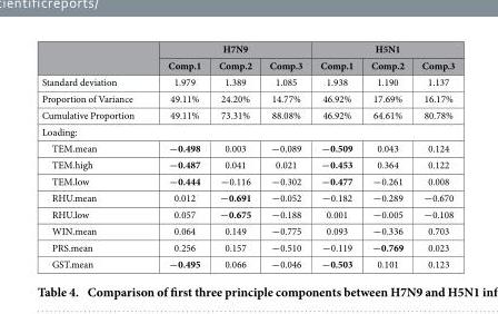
<table><thead><tr><td rowspan="2"></td><td colspan="3">H7N9</td><td colspan="3">H5N1</td></tr><tr><td>Comp.1</td><td>Comp.2</td><td>Comp.3</td><td>Comp.1</td><td>Comp.2</td><td>Comp.3</td></tr></thead><tbody><tr><td>Standard deviation</td><td>1.979</td><td>1.389</td><td>1.085</td><td>1.938</td><td>1.190</td><td>1.137</td></tr><tr><td>Proportion of Variance</td><td>49.11%</td><td>24.20%</td><td>14.77%</td><td>46.92%</td><td>17.69%</td><td>16.17%</td></tr><tr><td>Cumulative Proportion</td><td>49.11%</td><td>73.31%</td><td>88.08%</td><td>46.92%</td><td>64.61%</td><td>80.78%</td></tr><tr><td colspan="7">Loading:</td></tr><tr><td>TEM.mean</td><td>−0.498</td><td>0.003</td><td>−0.089</td><td>−0.509</td><td>0.043</td><td>0.124</td></tr><tr><td>TEM.high</td><td>−0.487</td><td>0.041</td><td>0.021</td><td>−0.453</td><td>0.364</td><td>0.122</td></tr><tr><td>TEM.low</td><td>−0.444</td><td>−0.116</td><td>−0.302</td><td>−0.477</td><td>−0.261</td><td>0.008</td></tr><tr><td>RHU.mean</td><td>0.012</td><td>−0.691</td><td>−0.052</td><td>−0.182</td><td>−0.289</td><td>−0.670</td></tr><tr><td>RHU.low</td><td>0.057</td><td>−0.675</td><td>−0.188</td><td>0.001</td><td>−0.005</td><td>−0.108</td></tr><tr><td>WIN.mean</td><td>0.064</td><td>0.149</td><td>−0.775</td><td>0.093</td><td>−0.336</td><td>0.703</td></tr><tr><td>PRS.mean</td><td>0.256</td><td>0.157</td><td>−0.510</td><td>−0.119</td><td>−0.769</td><td>0.023</td></tr><tr><td>GST.mean</td><td>−0.495</td><td>0.066</td><td>−0.046</td><td>−0.503</td><td>0.101</td><td>0.123</td></tr></tbody></table>